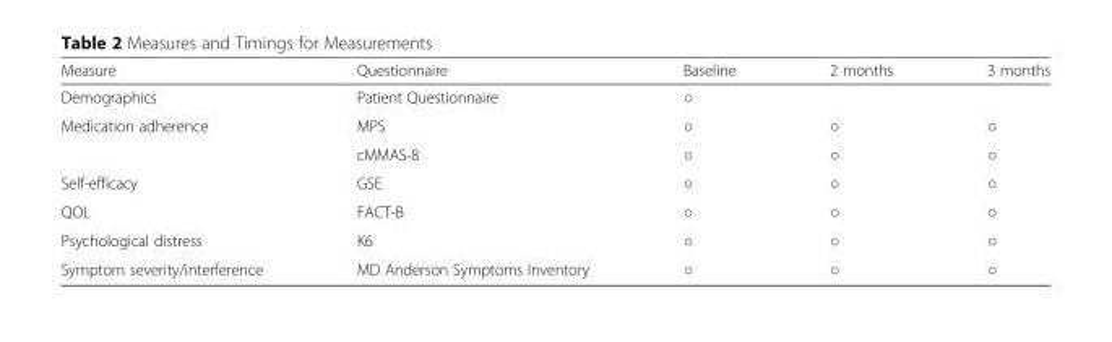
<table><thead><tr><td>Measure</td><td>Questionnaire</td><td>Baseline</td><td>2 months</td><td>3 months</td></tr></thead><tbody><tr><td>Demographics</td><td>Patient Questionnaire</td><td>○</td><td></td><td></td></tr><tr><td rowspan="2">Medication adherence</td><td>MPS</td><td>○</td><td>○</td><td>○</td></tr><tr><td>cMMAS-8</td><td>○</td><td>○</td><td>○</td></tr><tr><td>Self-efficacy</td><td>GSE</td><td>○</td><td>○</td><td>○</td></tr><tr><td>QOL</td><td>FACT-B</td><td>○</td><td>○</td><td>○</td></tr><tr><td>Psychological distress</td><td>K6</td><td>○</td><td>○</td><td>○</td></tr><tr><td>Symptom severity/interference</td><td>MD Anderson Symptoms Inventory</td><td>○</td><td>○</td><td>○</td></tr></tbody></table>